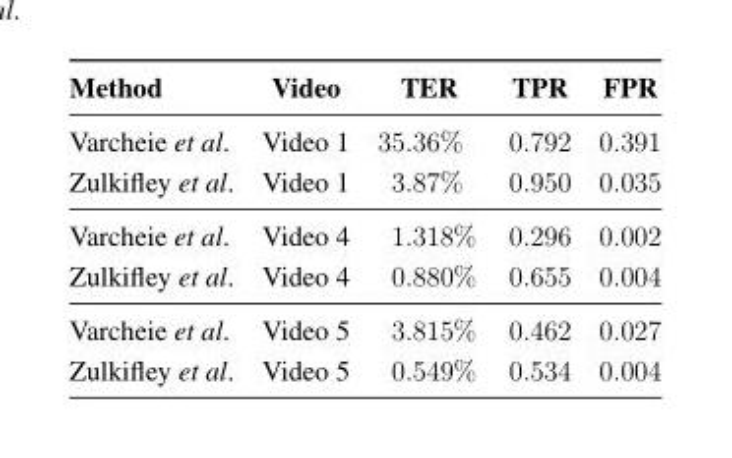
<table><thead><tr><td>Method</td><td>Video</td><td>TER</td><td>TPR</td><td>FPR</td></tr></thead><tbody><tr><td>Varcheie et al.</td><td>Video 1</td><td>35.36%</td><td>0.792</td><td>0.391</td></tr><tr><td>Zulkifley et al.</td><td>Video 1</td><td>3.87%</td><td>0.950</td><td>0.035</td></tr><tr><td>Varcheie et al.</td><td>Video 4</td><td>1.318%</td><td>0.296</td><td>0.002</td></tr><tr><td>Zulkifley et al.</td><td>Video 4</td><td>0.880%</td><td>0.655</td><td>0.004</td></tr><tr><td>Varcheie et al.</td><td>Video 5</td><td>3.815%</td><td>0.462</td><td>0.027</td></tr><tr><td>Zulkifley et al.</td><td>Video 5</td><td>0.549%</td><td>0.534</td><td>0.004</td></tr></tbody></table>